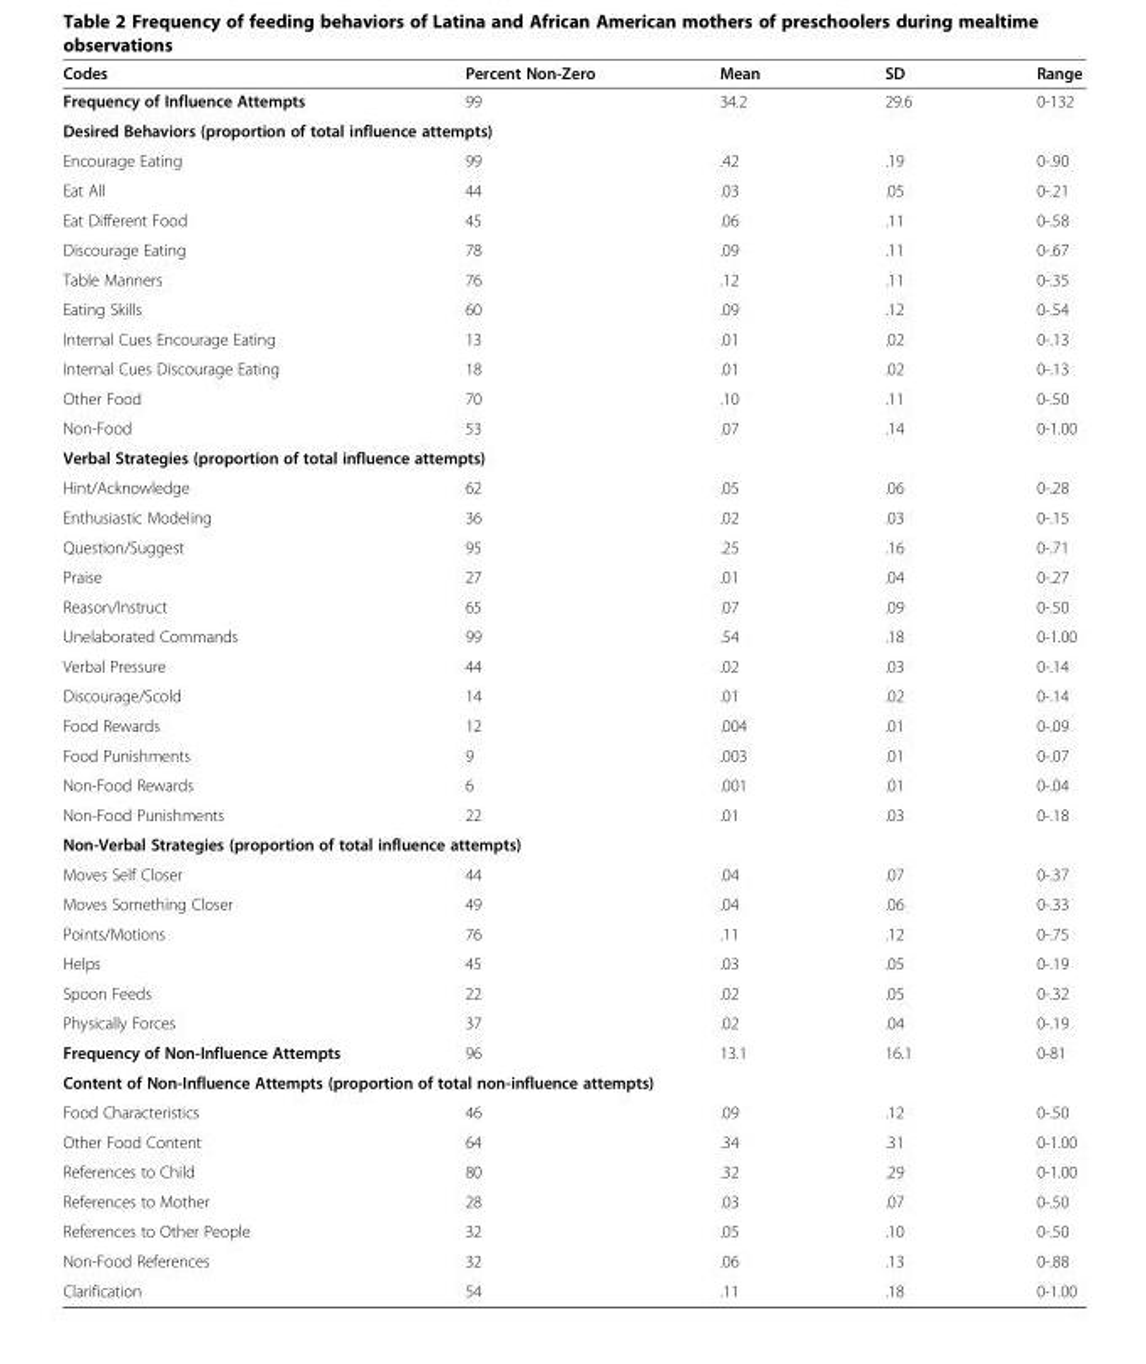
<table><thead><tr><td>Codes</td><td>Percent Non-Zero</td><td>Mean</td><td>SD</td><td>Range</td></tr></thead><tbody><tr><td>Frequency of Influence Attempts</td><td>99</td><td>34.2</td><td>29.6</td><td>0-132</td></tr><tr><td colspan="5">Desired Behaviors (proportion of total influence attempts)</td></tr><tr><td>Encourage Eating</td><td>99</td><td>.42</td><td>.19</td><td>0-.90</td></tr><tr><td>Eat All</td><td>44</td><td>.03</td><td>.05</td><td>0-.21</td></tr><tr><td>Eat Different Food</td><td>45</td><td>.06</td><td>.11</td><td>0-.58</td></tr><tr><td>Discourage Eating</td><td>78</td><td>.09</td><td>.11</td><td>0-.67</td></tr><tr><td>Table Manners</td><td>76</td><td>.12</td><td>.11</td><td>0-.35</td></tr><tr><td>Eating Skills</td><td>60</td><td>.09</td><td>.12</td><td>0-.54</td></tr><tr><td>Internal Cues Encourage Eating</td><td>13</td><td>.01</td><td>.02</td><td>0-.13</td></tr><tr><td>Internal Cues Discourage Eating</td><td>18</td><td>.01</td><td>.02</td><td>0-.13</td></tr><tr><td>Other Food</td><td>70</td><td>.10</td><td>.11</td><td>0-.50</td></tr><tr><td>Non-Food</td><td>53</td><td>.07</td><td>.14</td><td>0-1.00</td></tr><tr><td colspan="5">Verbal Strategies (proportion of total influence attempts)</td></tr><tr><td>Hint/Acknowledge</td><td>62</td><td>.05</td><td>.06</td><td>0-.28</td></tr><tr><td>Enthusiastic Modeling</td><td>36</td><td>.02</td><td>.03</td><td>0-.15</td></tr><tr><td>Question/Suggest</td><td>95</td><td>.25</td><td>.16</td><td>0-.71</td></tr><tr><td>Praise</td><td>27</td><td>.01</td><td>.04</td><td>0-.27</td></tr><tr><td>Reason/Instruct</td><td>65</td><td>.07</td><td>.09</td><td>0-.50</td></tr><tr><td>Unelaborated Commands</td><td>99</td><td>.54</td><td>.18</td><td>0-1.00</td></tr><tr><td>Verbal Pressure</td><td>44</td><td>.02</td><td>.03</td><td>0-.14</td></tr><tr><td>Discourage/Scold</td><td>14</td><td>.01</td><td>.02</td><td>0-.14</td></tr><tr><td>Food Rewards</td><td>12</td><td>.004</td><td>.01</td><td>0-.09</td></tr><tr><td>Food Punishments</td><td>9</td><td>.003</td><td>.01</td><td>0-.07</td></tr><tr><td>Non-Food Rewards</td><td>6</td><td>.001</td><td>.01</td><td>0-.04</td></tr><tr><td>Non-Food Punishments</td><td>22</td><td>.01</td><td>.03</td><td>0-.18</td></tr><tr><td colspan="5">Non-Verbal Strategies (proportion of total influence attempts)</td></tr><tr><td>Moves Self Closer</td><td>44</td><td>.04</td><td>.07</td><td>0-.37</td></tr><tr><td>Moves Something Closer</td><td>49</td><td>.04</td><td>.06</td><td>0-.33</td></tr><tr><td>Points/Motions</td><td>76</td><td>.11</td><td>.12</td><td>0-.75</td></tr><tr><td>Helps</td><td>45</td><td>.03</td><td>.05</td><td>0-.19</td></tr><tr><td>Spoon Feeds</td><td>22</td><td>.02</td><td>.05</td><td>0-.32</td></tr><tr><td>Physically Forces</td><td>37</td><td>.02</td><td>.04</td><td>0-.19</td></tr><tr><td>Frequency of Non-Influence Attempts</td><td>96</td><td>13.1</td><td>16.1</td><td>0-81</td></tr><tr><td colspan="5">Content of Non-Influence Attempts (proportion of total non-influence attempts)</td></tr><tr><td>Food Characteristics</td><td>46</td><td>.09</td><td>.12</td><td>0-.50</td></tr><tr><td>Other Food Content</td><td>64</td><td>.34</td><td>.31</td><td>0-1.00</td></tr><tr><td>References to Child</td><td>80</td><td>.32</td><td>.29</td><td>0-1.00</td></tr><tr><td>References to Mother</td><td>28</td><td>.03</td><td>.07</td><td>0-.50</td></tr><tr><td>References to Other People</td><td>32</td><td>.05</td><td>.10</td><td>0-.50</td></tr><tr><td>Non-Food References</td><td>32</td><td>.06</td><td>.13</td><td>0-.88</td></tr><tr><td>Clarification</td><td>54</td><td>.11</td><td>.18</td><td>0-1.00</td></tr></tbody></table>